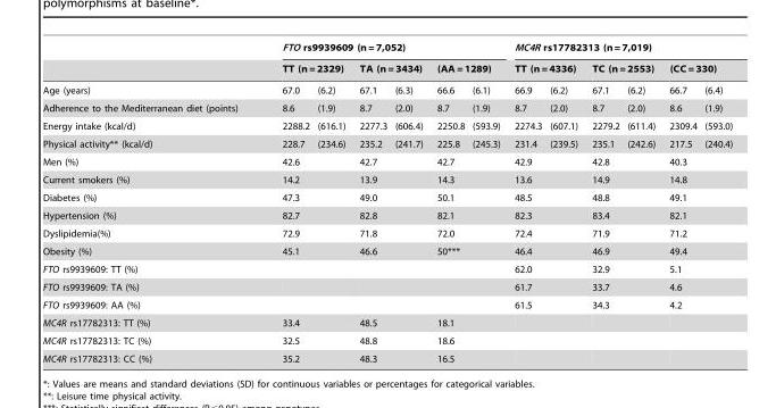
<table><thead><tr><td rowspan="3">Age (years)</td><td colspan="6">FTO rs9939609 (n = 7,052)</td><td colspan="6">MC4R rs17782313 (n = 7,019)</td></tr><tr><td colspan="2">TT (n = 2329)</td><td colspan="2">TA (n = 3434)</td><td colspan="2">(AA = 1289)</td><td colspan="2">TT (n = 4336)</td><td colspan="2">TC (n = 2553)</td><td colspan="2">(CC = 330)</td></tr><tr><td>67.0</td><td>(6.2)</td><td>67.1</td><td>(6.3)</td><td>66.6</td><td>(6.1)</td><td>66.9</td><td>(6.2)</td><td>67.1</td><td>(6.2)</td><td>66.7</td><td>(6.4)</td></tr></thead><tbody><tr><td>Adherence to the Mediterranean diet (points)</td><td>8.6</td><td>(1.9)</td><td>8.7</td><td>(2.0)</td><td>8.7</td><td>(1.9)</td><td>8.7</td><td>(2.0)</td><td>8.7</td><td>(2.0)</td><td>8.6</td><td>(1.9)</td></tr><tr><td>Energy intake (kcal/d)</td><td>2288.2</td><td>(616.1)</td><td>2277.3</td><td>(606.4)</td><td>2250.8</td><td>(593.9)</td><td>2274.3</td><td>(607.1)</td><td>2279.2</td><td>(611.4)</td><td>2309.4</td><td>(593.0)</td></tr><tr><td>Physical activity** (kcal/d)</td><td>228.7</td><td>(234.6)</td><td>235.2</td><td>(241.7)</td><td>225.8</td><td>(245.3)</td><td>231.4</td><td>(239.5)</td><td>235.1</td><td>(242.6)</td><td>217.5</td><td>(240.4)</td></tr><tr><td>Men (%)</td><td colspan="2">42.6</td><td colspan="2">42.7</td><td colspan="2">42.7</td><td colspan="2">42.9</td><td colspan="2">42.8</td><td colspan="2">40.3</td></tr><tr><td>Current smokers (%)</td><td colspan="2">14.2</td><td colspan="2">13.9</td><td colspan="2">14.3</td><td colspan="2">13.6</td><td colspan="2">14.9</td><td colspan="2">14.8</td></tr><tr><td>Diabetes (%)</td><td colspan="2">47.3</td><td colspan="2">49.0</td><td colspan="2">50.1</td><td colspan="2">48.5</td><td colspan="2">48.8</td><td colspan="2">49.1</td></tr><tr><td>Hypertension (%)</td><td colspan="2">82.7</td><td colspan="2">82.8</td><td colspan="2">82.1</td><td colspan="2">82.3</td><td colspan="2">83.4</td><td colspan="2">82.1</td></tr><tr><td>Dyslipidemia(%)</td><td colspan="2">72.9</td><td colspan="2">71.8</td><td colspan="2">72.0</td><td colspan="2">72.4</td><td colspan="2">71.9</td><td colspan="2">71.2</td></tr><tr><td>Obesity (%)</td><td colspan="2">45.1</td><td colspan="2">46.6</td><td colspan="2">50***</td><td colspan="2">46.4</td><td colspan="2">46.9</td><td colspan="2">49.4</td></tr><tr><td>FTO rs9939609: TT (%)</td><td colspan="2"></td><td colspan="2"></td><td colspan="2"></td><td colspan="2">62.0</td><td colspan="2">32.9</td><td colspan="2">5.1</td></tr><tr><td>FTO rs9939609: TA (%)</td><td colspan="2"></td><td colspan="2"></td><td colspan="2"></td><td colspan="2">61.7</td><td colspan="2">33.7</td><td colspan="2">4.6</td></tr><tr><td>FTO rs9939609: AA (%)</td><td colspan="2"></td><td colspan="2"></td><td colspan="2"></td><td colspan="2">61.5</td><td colspan="2">34.3</td><td colspan="2">4.2</td></tr><tr><td>MC4R rs17782313: TT (%)</td><td colspan="2">33.4</td><td colspan="2">48.5</td><td colspan="2">18.1</td><td colspan="2"></td><td colspan="2"></td><td colspan="2"></td></tr><tr><td>MC4R rs17782313: TC (%)</td><td colspan="2">32.5</td><td colspan="2">48.8</td><td colspan="2">18.6</td><td colspan="2"></td><td colspan="2"></td><td colspan="2"></td></tr><tr><td>MC4R rs17782313: CC (%)</td><td colspan="2">35.2</td><td colspan="2">48.3</td><td colspan="2">16.5</td><td colspan="2"></td><td colspan="2"></td><td colspan="2"></td></tr></tbody></table>